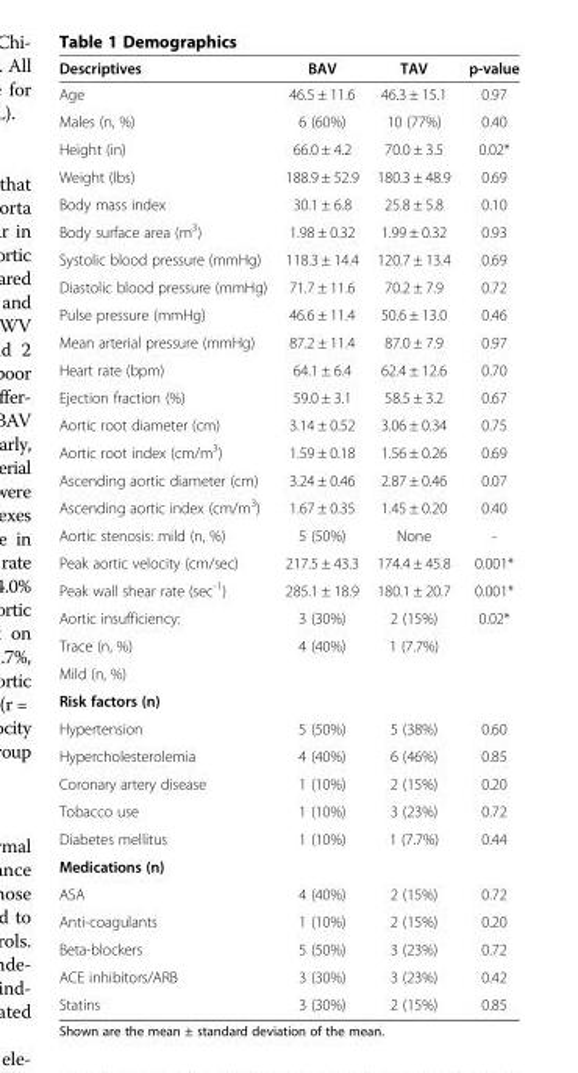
<table><thead><tr><td>Descriptives</td><td>BAV</td><td>TAV</td><td>p-value</td></tr></thead><tbody><tr><td>Age</td><td>46.5 ± 11.6</td><td>46.3 ± 15.1</td><td>0.97</td></tr><tr><td>Males (n, %)</td><td>6 (60%)</td><td>10 (77%)</td><td>0.40</td></tr><tr><td>Height (in)</td><td>66.0 ± 4.2</td><td>70.0 ± 3.5</td><td>0.02*</td></tr><tr><td>Weight (lbs)</td><td>188.9 ± 52.9</td><td>180.3 ± 48.9</td><td>0.69</td></tr><tr><td>Body mass index</td><td>30.1 ± 6.8</td><td>25.8 ± 5.8</td><td>0.10</td></tr><tr><td>Body surface area (m<sup>3</sup>)</td><td>1.98 ± 0.32</td><td>1.99 ± 0.32</td><td>0.93</td></tr><tr><td>Systolic blood pressure (mmHg)</td><td>118.3 ± 14.4</td><td>120.7 ± 13.4</td><td>0.69</td></tr><tr><td>Diastolic blood pressure (mmHg)</td><td>71.7 ± 11.6</td><td>70.2 ± 7.9</td><td>0.72</td></tr><tr><td>Pulse pressure (mmHg)</td><td>46.6 ± 11.4</td><td>50.6 ± 13.0</td><td>0.46</td></tr><tr><td>Mean arterial pressure (mmHg)</td><td>87.2 ± 11.4</td><td>87.0 ± 7.9</td><td>0.97</td></tr><tr><td>Heart rate (bpm)</td><td>64.1 ± 6.4</td><td>62.4 ± 12.6</td><td>0.70</td></tr><tr><td>Ejection fraction (%)</td><td>59.0 ± 3.1</td><td>58.5 ± 3.2</td><td>0.67</td></tr><tr><td>Aortic root diameter (cm)</td><td>3.14 ± 0.52</td><td>3.06 ± 0.34</td><td>0.75</td></tr><tr><td>Aortic root index (cm/m<sup>3</sup>)</td><td>1.59 ± 0.18</td><td>1.56 ± 0.26</td><td>0.69</td></tr><tr><td>Ascending aortic diameter (cm)</td><td>3.24 ± 0.46</td><td>2.87 ± 0.46</td><td>0.07</td></tr><tr><td>Ascending aortic index (cm/m<sup>3</sup>)</td><td>1.67 ± 0.35</td><td>1.45 ± 0.20</td><td>0.40</td></tr><tr><td>Aortic stenosis: mild (n, %)</td><td>5 (50%)</td><td>None</td><td>-</td></tr><tr><td>Peak aortic velocity (cm/sec)</td><td>217.5 ± 43.3</td><td>174.4 ± 45.8</td><td>0.001*</td></tr><tr><td>Peak wall shear rate (sec<sup>-1</sup>)</td><td>285.1 ± 18.9</td><td>180.1 ± 20.7</td><td>0.001*</td></tr><tr><td>Aortic insufficiency:</td><td>3 (30%)</td><td>2 (15%)</td><td rowspan="3">0.02*</td></tr><tr><td>Trace (n, %)</td><td rowspan="2">4 (40%)</td><td rowspan="2">1 (7.7%)</td></tr><tr><td>Mild (n, %)</td></tr><tr><td colspan="4">Risk factors (n)</td></tr><tr><td>Hypertension</td><td>5 (50%)</td><td>5 (38%)</td><td>0.60</td></tr><tr><td>Hypercholesterolemia</td><td>4 (40%)</td><td>6 (46%)</td><td>0.85</td></tr><tr><td>Coronary artery disease</td><td>1 (10%)</td><td>2 (15%)</td><td>0.20</td></tr><tr><td>Tobacco use</td><td>1 (10%)</td><td>3 (23%)</td><td>0.72</td></tr><tr><td>Diabetes mellitus</td><td>1 (10%)</td><td>1 (7.7%)</td><td>0.44</td></tr><tr><td colspan="4">Medications (n)</td></tr><tr><td>ASA</td><td>4 (40%)</td><td>2 (15%)</td><td>0.72</td></tr><tr><td>Anti-coagulants</td><td>1 (10%)</td><td>2 (15%)</td><td>0.20</td></tr><tr><td>Beta-blockers</td><td>5 (50%)</td><td>3 (23%)</td><td>0.72</td></tr><tr><td>ACE inhibitors/ARB</td><td>3 (30%)</td><td>3 (23%)</td><td>0.42</td></tr><tr><td>Statins</td><td>3 (30%)</td><td>2 (15%)</td><td>0.85</td></tr></tbody></table>